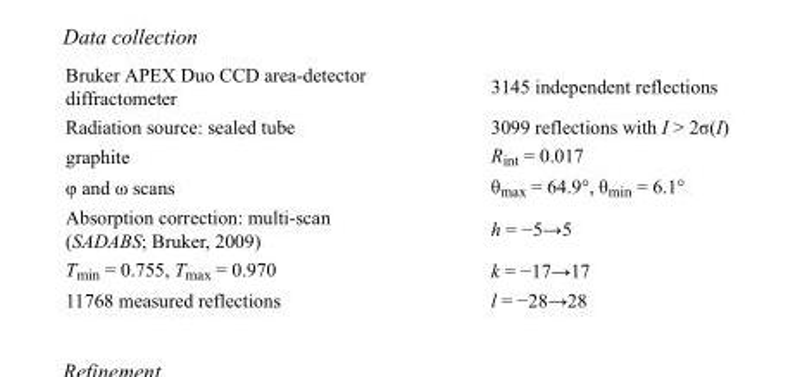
<table><tbody><tr><td>Bruker APEX Duo CCD area-detector diffractometer</td><td>3145 independent reflections</td></tr><tr><td>Radiation source: sealed tube</td><td>3099 reflections with I &gt; 2σ(I)</td></tr><tr><td>graphite</td><td>R<sub>int</sub> = 0.017</td></tr><tr><td>φ and ω scans</td><td>θ<sub>max</sub> = 64.9°, θ<sub>min</sub> = 6.1°</td></tr><tr><td>Absorption correction: multi-scan (SADABS; Bruker, 2009)</td><td>h = −5→5</td></tr><tr><td>T<sub>min</sub> = 0.755, T<sub>max</sub> = 0.970</td><td>k = −17→17</td></tr><tr><td>11768 measured reflections</td><td>l = −28→28</td></tr></tbody></table>